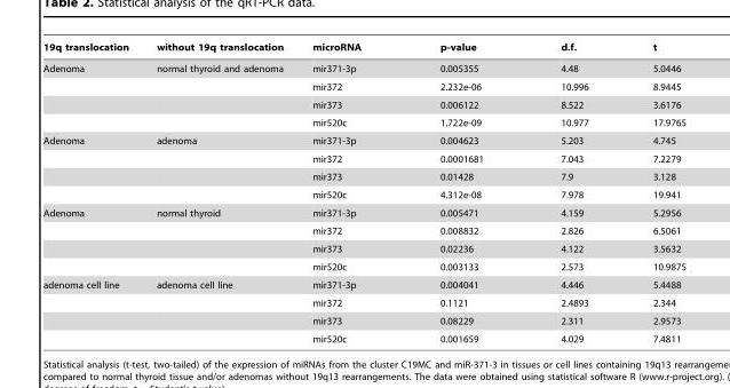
<table><thead><tr><td>19q translocation</td><td>without 19q translocation</td><td>microRNA</td><td>p-value</td><td>d.f.</td><td>t</td></tr></thead><tbody><tr><td rowspan="4">Adenoma</td><td>normal thyroid and adenoma</td><td>mir371-3p</td><td>0.005355</td><td>4.48</td><td>5.0446</td></tr><tr><td></td><td>mir372</td><td>2.232e-06</td><td>10.996</td><td>8.9445</td></tr><tr><td></td><td>mir373</td><td>0.006122</td><td>8.522</td><td>3.6176</td></tr><tr><td></td><td>mir520c</td><td>1.722e-09</td><td>10.977</td><td>17.9765</td></tr><tr><td rowspan="4">Adenoma</td><td>adenoma</td><td>mir371-3p</td><td>0.004623</td><td>5.203</td><td>4.745</td></tr><tr><td></td><td>mir372</td><td>0.0001681</td><td>7.043</td><td>7.2279</td></tr><tr><td></td><td>mir373</td><td>0.01428</td><td>7.9</td><td>3.128</td></tr><tr><td></td><td>mir520c</td><td>4.312e-08</td><td>7.978</td><td>19.941</td></tr><tr><td rowspan="4">Adenoma</td><td>normal thyroid</td><td>mir371-3p</td><td>0.005471</td><td>4.159</td><td>5.2956</td></tr><tr><td></td><td>mir372</td><td>0.008832</td><td>2.826</td><td>6.5061</td></tr><tr><td></td><td>mir373</td><td>0.02236</td><td>4.122</td><td>3.5632</td></tr><tr><td></td><td>mir520c</td><td>0.003133</td><td>2.573</td><td>10.9875</td></tr><tr><td rowspan="4">adenoma cell line</td><td>adenoma cell line</td><td>mir371-3p</td><td>0.004041</td><td>4.446</td><td>5.4488</td></tr><tr><td></td><td>mir372</td><td>0.1121</td><td>2.4893</td><td>2.344</td></tr><tr><td></td><td>mir373</td><td>0.08229</td><td>2.311</td><td>2.9573</td></tr><tr><td></td><td>mir520c</td><td>0.001659</td><td>4.029</td><td>7.4811</td></tr></tbody></table>